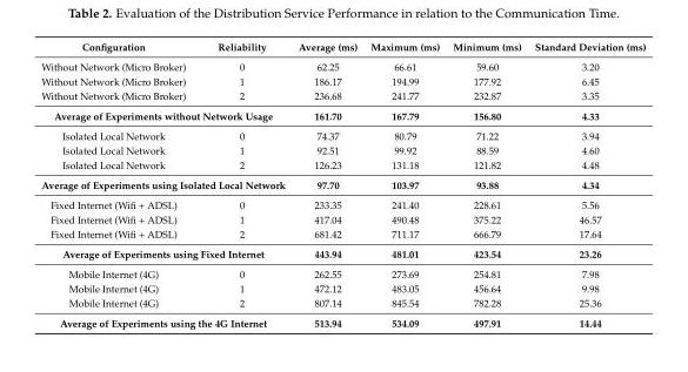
<table><thead><tr><td>Configuration</td><td>Reliability</td><td>Average (ms)</td><td>Maximum (ms)</td><td>Minimum (ms)</td><td>Standard Deviation (ms)</td></tr></thead><tbody><tr><td>Without Network (Micro Broker)</td><td>0</td><td>62.25</td><td>66.61</td><td>59.60</td><td>3.20</td></tr><tr><td>Without Network (Micro Broker)</td><td>1</td><td>186.17</td><td>194.99</td><td>177.92</td><td>6.45</td></tr><tr><td>Without Network (Micro Broker)</td><td>2</td><td>236.68</td><td>241.77</td><td>232.87</td><td>3.35</td></tr><tr><td colspan="2">Average of Experiments without Network Usage</td><td>161.70</td><td>167.79</td><td>156.80</td><td>4.33</td></tr><tr><td>Isolated Local Network</td><td>0</td><td>74.37</td><td>80.79</td><td>71.22</td><td>3.94</td></tr><tr><td>Isolated Local Network</td><td>1</td><td>92.51</td><td>99.92</td><td>88.59</td><td>4.60</td></tr><tr><td>Isolated Local Network</td><td>2</td><td>126.23</td><td>131.18</td><td>121.82</td><td>4.48</td></tr><tr><td colspan="2">Average of Experiments using Isolated Local Network</td><td>97.70</td><td>103.97</td><td>93.88</td><td>4.34</td></tr><tr><td>Fixed Internet (Wifi + ADSL)</td><td>0</td><td>233.35</td><td>241.40</td><td>228.61</td><td>5.56</td></tr><tr><td>Fixed Internet (Wifi + ADSL)</td><td>1</td><td>417.04</td><td>490.48</td><td>375.22</td><td>46.57</td></tr><tr><td>Fixed Internet (Wifi + ADSL)</td><td>2</td><td>681.42</td><td>711.17</td><td>666.79</td><td>17.64</td></tr><tr><td colspan="2">Average of Experiments using Fixed Internet</td><td>443.94</td><td>481.01</td><td>423.54</td><td>23.26</td></tr><tr><td>Mobile Internet (4G)</td><td>0</td><td>262.55</td><td>273.69</td><td>254.81</td><td>7.98</td></tr><tr><td>Mobile Internet (4G)</td><td>1</td><td>472.12</td><td>483.05</td><td>456.64</td><td>9.98</td></tr><tr><td>Mobile Internet (4G)</td><td>2</td><td>807.14</td><td>845.54</td><td>782.28</td><td>25.36</td></tr><tr><td colspan="2">Average of Experiments using the 4G Internet</td><td>513.94</td><td>534.09</td><td>497.91</td><td>14.44</td></tr></tbody></table>